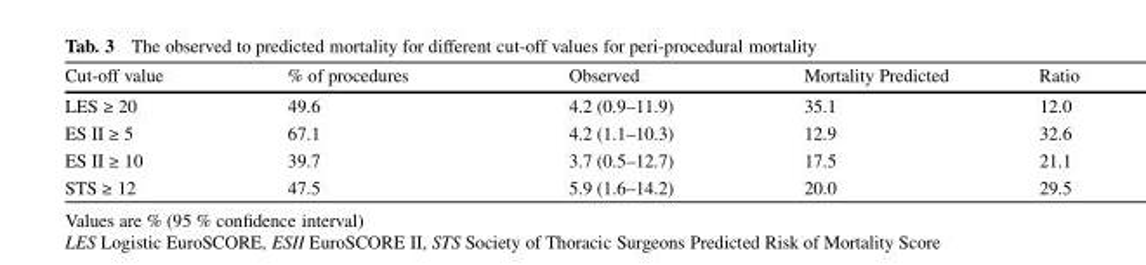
<table><thead><tr><td>Cut-off value</td><td>% of procedures</td><td>Observed</td><td>Mortality Predicted</td><td>Ratio</td></tr></thead><tbody><tr><td>LES ≥ 20</td><td>49.6</td><td>4.2 (0.9–11.9)</td><td>35.1</td><td>12.0</td></tr><tr><td>ES II ≥ 5</td><td>67.1</td><td>4.2 (1.1–10.3)</td><td>12.9</td><td>32.6</td></tr><tr><td>ES II ≥ 10</td><td>39.7</td><td>3.7 (0.5–12.7)</td><td>17.5</td><td>21.1</td></tr><tr><td>STS ≥ 12</td><td>47.5</td><td>5.9 (1.6–14.2)</td><td>20.0</td><td>29.5</td></tr></tbody></table>